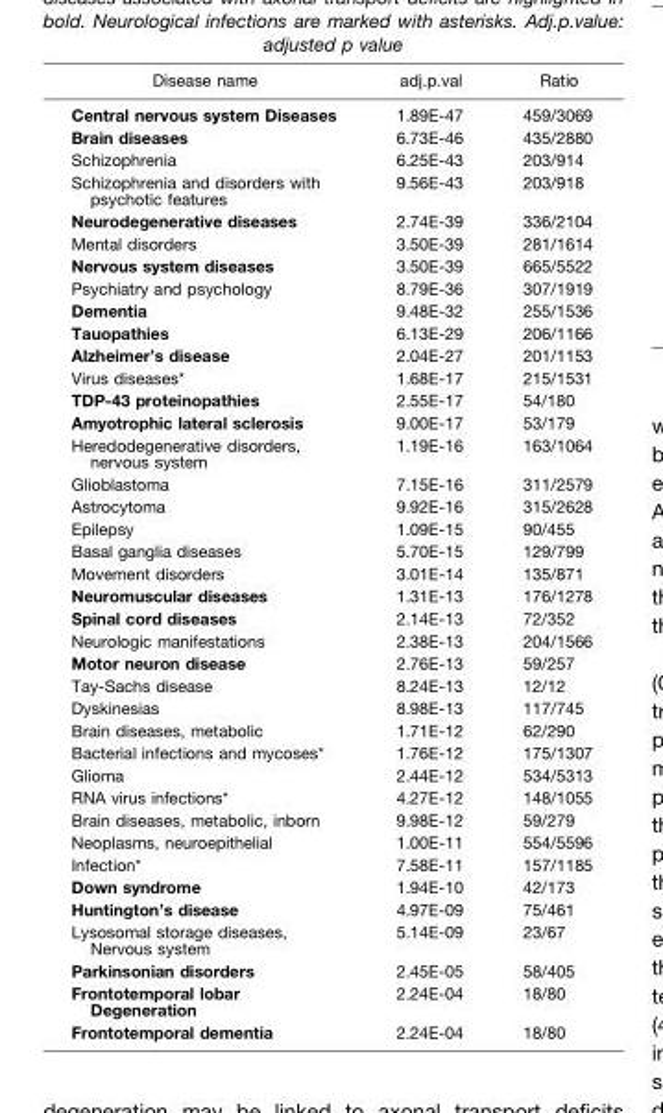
<table><thead><tr><td>Disease name</td><td>adj.p.val</td><td>Ratio</td></tr></thead><tbody><tr><td>Central nervous system Diseases</td><td>1.89E-47</td><td>459/3069</td></tr><tr><td>Brain diseases</td><td>6.73E-46</td><td>435/2880</td></tr><tr><td>Schizophrenia</td><td>6.25E-43</td><td>203/914</td></tr><tr><td>Schizophrenia and disorders with psychotic features</td><td>9.56E-43</td><td>203/918</td></tr><tr><td>Neurodegenerative diseases</td><td>2.74E-39</td><td>336/2104</td></tr><tr><td>Mental disorders</td><td>3.50E-39</td><td>281/1614</td></tr><tr><td>Nervous system diseases</td><td>3.50E-39</td><td>665/5522</td></tr><tr><td>Psychiatry and psychology</td><td>8.79E-36</td><td>307/1919</td></tr><tr><td>Dementia</td><td>9.48E-32</td><td>255/1536</td></tr><tr><td>Tauopathies</td><td>6.13E-29</td><td>206/1166</td></tr><tr><td>Alzheimer’s disease</td><td>2.04E-27</td><td>201/1153</td></tr><tr><td>Virus diseases*</td><td>1.68E-17</td><td>215/1531</td></tr><tr><td>TDP-43 proteinopathies</td><td>2.55E-17</td><td>54/180</td></tr><tr><td>Amyotrophic lateral sclerosis</td><td>9.00E-17</td><td>53/179</td></tr><tr><td>Heredodegenerative disorders, nervous system</td><td>1.19E-16</td><td>163/1064</td></tr><tr><td>Glioblastoma</td><td>7.15E-16</td><td>311/2579</td></tr><tr><td>Astrocytoma</td><td>9.92E-16</td><td>315/2628</td></tr><tr><td>Epilepsy</td><td>1.09E-15</td><td>90/455</td></tr><tr><td>Basal ganglia diseases</td><td>5.70E-15</td><td>129/799</td></tr><tr><td>Movement disorders</td><td>3.01E-14</td><td>135/871</td></tr><tr><td>Neuromuscular diseases</td><td>1.31E-13</td><td>176/1278</td></tr><tr><td>Spinal cord diseases</td><td>2.14E-13</td><td>72/352</td></tr><tr><td>Neurologic manifestations</td><td>2.38E-13</td><td>204/1566</td></tr><tr><td>Motor neuron disease</td><td>2.76E-13</td><td>59/257</td></tr><tr><td>Tay-Sachs disease</td><td>8.24E-13</td><td>12/12</td></tr><tr><td>Dyskinesias</td><td>8.98E-13</td><td>117/745</td></tr><tr><td>Brain diseases, metabolic</td><td>1.71E-12</td><td>62/290</td></tr><tr><td>Bacterial infections and mycoses*</td><td>1.76E-12</td><td>175/1307</td></tr><tr><td>Glioma</td><td>2.44E-12</td><td>534/5313</td></tr><tr><td>RNA virus infections*</td><td>4.27E-12</td><td>148/1055</td></tr><tr><td>Brain diseases, metabolic, inborn</td><td>9.98E-12</td><td>59/279</td></tr><tr><td>Neoplasms, neuroepithelial</td><td>1.00E-11</td><td>554/5596</td></tr><tr><td>Infection*</td><td>7.58E-11</td><td>157/1185</td></tr><tr><td>Down syndrome</td><td>1.94E-10</td><td>42/173</td></tr><tr><td>Huntington’s disease</td><td>4.97E-09</td><td>75/461</td></tr><tr><td>Lysosomal storage diseases, Nervous system</td><td>5.14E-09</td><td>23/67</td></tr><tr><td>Parkinsonian disorders</td><td>2.45E-05</td><td>58/405</td></tr><tr><td>Frontotemporal lobar Degeneration</td><td>2.24E-04</td><td>18/80</td></tr><tr><td>Frontotemporal dementia</td><td>2.24E-04</td><td>18/80</td></tr></tbody></table>